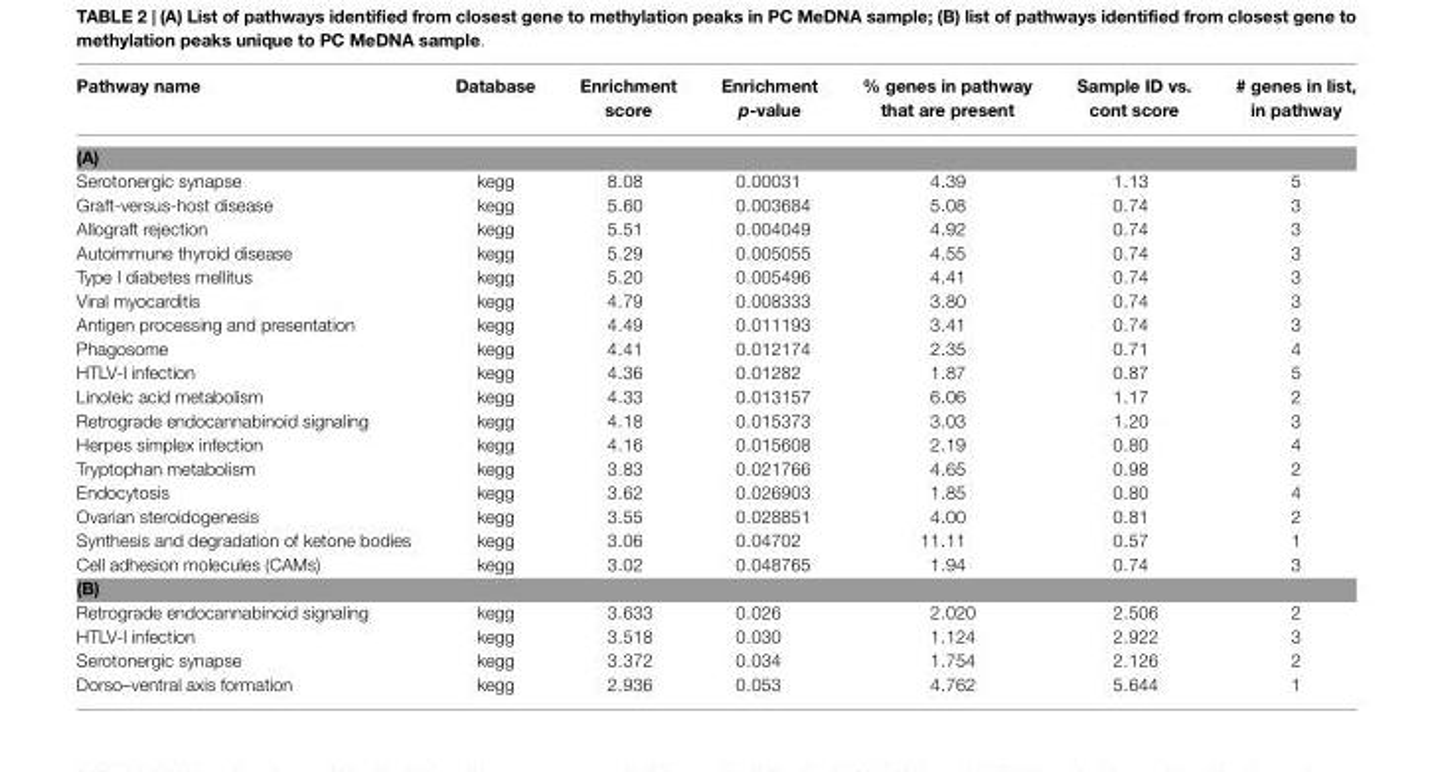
<table><thead><tr><td>Pathway name</td><td>Database</td><td>Enrichment score</td><td>Enrichment p-value</td><td>% genes in pathway that are present</td><td>Sample ID vs. cont score</td><td># genes in list, in pathway</td></tr></thead><tbody><tr><td colspan="7">(A)</td></tr><tr><td>Serotonergic synapse</td><td>kegg</td><td>8.08</td><td>0.00031</td><td>4.39</td><td>1.13</td><td>5</td></tr><tr><td>Graft-versus-host disease</td><td>kegg</td><td>5.60</td><td>0.003684</td><td>5.08</td><td>0.74</td><td>3</td></tr><tr><td>Allograft rejection</td><td>kegg</td><td>5.51</td><td>0.004049</td><td>4.92</td><td>0.74</td><td>3</td></tr><tr><td>Autoimmune thyroid disease</td><td>kegg</td><td>5.29</td><td>0.005055</td><td>4.55</td><td>0.74</td><td>3</td></tr><tr><td>Type I diabetes mellitus</td><td>kegg</td><td>5.20</td><td>0.005496</td><td>4.41</td><td>0.74</td><td>3</td></tr><tr><td>Viral myocarditis</td><td>kegg</td><td>4.79</td><td>0.008333</td><td>3.80</td><td>0.74</td><td>3</td></tr><tr><td>Antigen processing and presentation</td><td>kegg</td><td>4.49</td><td>0.011193</td><td>3.41</td><td>0.74</td><td>3</td></tr><tr><td>Phagosome</td><td>kegg</td><td>4.41</td><td>0.012174</td><td>2.35</td><td>0.71</td><td>4</td></tr><tr><td>HTLV-I infection</td><td>kegg</td><td>4.36</td><td>0.01282</td><td>1.87</td><td>0.87</td><td>5</td></tr><tr><td>Linoleic acid metabolism</td><td>kegg</td><td>4.33</td><td>0.013157</td><td>6.06</td><td>1.17</td><td>2</td></tr><tr><td>Retrograde endocannabinoid signaling</td><td>kegg</td><td>4.18</td><td>0.015373</td><td>3.03</td><td>1.20</td><td>3</td></tr><tr><td>Herpes simplex infection</td><td>kegg</td><td>4.16</td><td>0.015608</td><td>2.19</td><td>0.80</td><td>4</td></tr><tr><td>Tryptophan metabolism</td><td>kegg</td><td>3.83</td><td>0.021766</td><td>4.65</td><td>0.98</td><td>2</td></tr><tr><td>Endocytosis</td><td>kegg</td><td>3.62</td><td>0.026903</td><td>1.85</td><td>0.80</td><td>4</td></tr><tr><td>Ovarian steroidogenesis</td><td>kegg</td><td>3.55</td><td>0.028851</td><td>4.00</td><td>0.81</td><td>2</td></tr><tr><td>Synthesis and degradation of ketone bodies</td><td>kegg</td><td>3.06</td><td>0.04702</td><td>11.11</td><td>0.57</td><td>1</td></tr><tr><td>Cell adhesion molecules (CAMs)</td><td>kegg</td><td>3.02</td><td>0.048765</td><td>1.94</td><td>0.74</td><td>3</td></tr><tr><td colspan="7">(B)</td></tr><tr><td>Retrograde endocannabinoid signaling</td><td>kegg</td><td>3.633</td><td>0.026</td><td>2.020</td><td>2.506</td><td>2</td></tr><tr><td>HTLV-I infection</td><td>kegg</td><td>3.518</td><td>0.030</td><td>1.124</td><td>2.922</td><td>3</td></tr><tr><td>Serotonergic synapse</td><td>kegg</td><td>3.372</td><td>0.034</td><td>1.754</td><td>2.126</td><td>2</td></tr><tr><td>Dorso–ventral axis formation</td><td>kegg</td><td>2.936</td><td>0.053</td><td>4.762</td><td>5.644</td><td>1</td></tr></tbody></table>